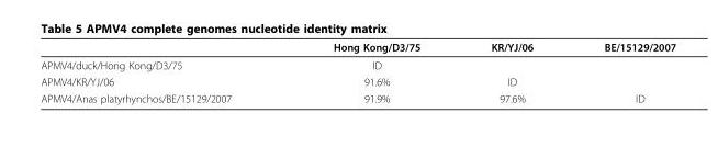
<table><thead><tr><td></td><td>Hong Kong/D3/75</td><td>KR/YJ/06</td><td>BE/15129/2007</td></tr></thead><tbody><tr><td>APMV4/duck/Hong Kong/D3/75</td><td>ID</td><td></td><td></td></tr><tr><td>APMV4/KR/YJ/06</td><td>91.6%</td><td>ID</td><td></td></tr><tr><td>APMV4/Anas platyrhynchos/BE/15129/2007</td><td>91.9%</td><td>97.6%</td><td>ID</td></tr></tbody></table>